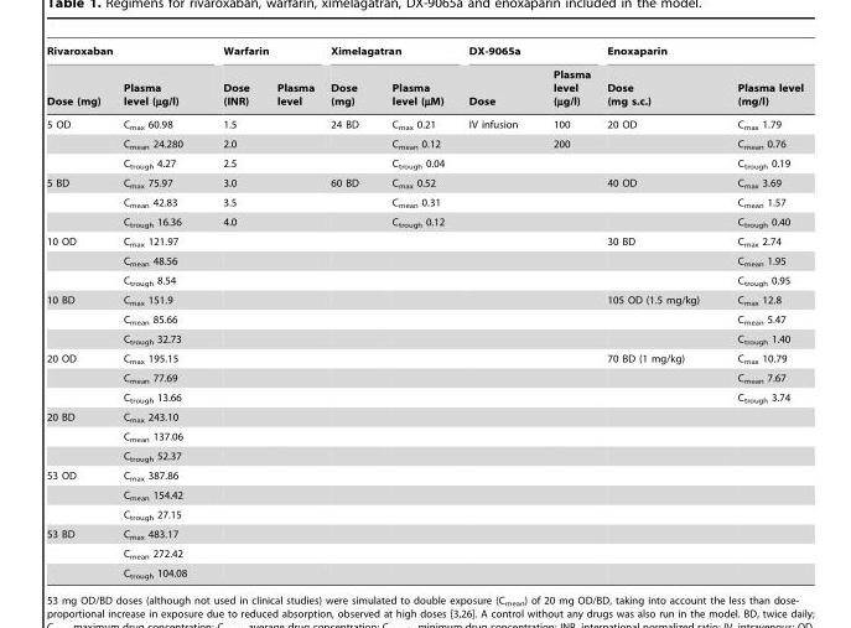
<table><thead><tr><td colspan="2">Rivaroxaban</td><td colspan="2">Warfarin</td><td colspan="2">Ximelagatran</td><td colspan="2">DX-9065a</td><td colspan="2">Enoxaparin</td></tr><tr><td>Dose (mg)</td><td>Plasma level (µg/l)</td><td>Dose (INR)</td><td>Plasma level</td><td>Dose (mg)</td><td>Plasma level (µM)</td><td>Dose</td><td>Plasma level (µg/l)</td><td>Dose (mg s.c.)</td><td>Plasma level (mg/l)</td></tr></thead><tbody><tr><td rowspan="3">5 OD</td><td>C<sub>max</sub> 60.98</td><td>1.5</td><td></td><td>24 BD</td><td>C<sub>max</sub> 0.21</td><td>IV infusion</td><td>100</td><td>20 OD</td><td>C<sub>max</sub> 1.79</td></tr><tr><td>C<sub>mean</sub> 24.280</td><td>2.0</td><td></td><td></td><td>C<sub>mean</sub> 0.12</td><td></td><td>200</td><td></td><td>C<sub>mean</sub> 0.76</td></tr><tr><td>C<sub>trough</sub> 4.27</td><td>2.5</td><td></td><td></td><td>C<sub>trough</sub> 0.04</td><td></td><td></td><td></td><td>C<sub>trough</sub> 0.19</td></tr><tr><td rowspan="3">5 BD</td><td>C<sub>max</sub> 75.97</td><td>3.0</td><td></td><td>60 BD</td><td>C<sub>max</sub> 0.52</td><td></td><td></td><td>40 OD</td><td>C<sub>max</sub> 3.69</td></tr><tr><td>C<sub>mean</sub> 42.83</td><td>3.5</td><td></td><td></td><td>C<sub>mean</sub> 0.31</td><td></td><td></td><td></td><td>C<sub>mean</sub> 1.57</td></tr><tr><td>C<sub>trough</sub> 16.36</td><td>4.0</td><td></td><td></td><td>C<sub>trough</sub> 0.12</td><td></td><td></td><td></td><td>C<sub>trough</sub> 0.40</td></tr><tr><td rowspan="3">10 OD</td><td>C<sub>max</sub> 121.97</td><td></td><td></td><td></td><td></td><td></td><td></td><td>30 BD</td><td>C<sub>max</sub> 2.74</td></tr><tr><td>C<sub>mean</sub> 48.56</td><td></td><td></td><td></td><td></td><td></td><td></td><td></td><td>C<sub>mean</sub> 1.95</td></tr><tr><td>C<sub>trough</sub> 8.54</td><td></td><td></td><td></td><td></td><td></td><td></td><td></td><td>C<sub>trough</sub> 0.95</td></tr><tr><td rowspan="3">10 BD</td><td>C<sub>max</sub> 151.9</td><td></td><td></td><td></td><td></td><td></td><td></td><td>105 OD (1.5 mg/kg)</td><td>C<sub>max</sub> 12.8</td></tr><tr><td>C<sub>mean</sub> 85.66</td><td></td><td></td><td></td><td></td><td></td><td></td><td></td><td>C<sub>mean</sub> 5.47</td></tr><tr><td>C<sub>trough</sub> 32.73</td><td></td><td></td><td></td><td></td><td></td><td></td><td></td><td>C<sub>trough</sub> 1.40</td></tr><tr><td rowspan="3">20 OD</td><td>C<sub>max</sub> 195.15</td><td></td><td></td><td></td><td></td><td></td><td></td><td>70 BD (1 mg/kg)</td><td>C<sub>max</sub> 10.79</td></tr><tr><td>C<sub>mean</sub> 77.69</td><td></td><td></td><td></td><td></td><td></td><td></td><td></td><td>C<sub>mean</sub> 7.67</td></tr><tr><td>C<sub>trough</sub> 13.66</td><td></td><td></td><td></td><td></td><td></td><td></td><td></td><td>C<sub>trough</sub> 3.74</td></tr><tr><td rowspan="3">20 BD</td><td>C<sub>max</sub> 243.10</td><td></td><td></td><td></td><td></td><td></td><td></td><td></td><td></td></tr><tr><td>C<sub>mean</sub> 137.06</td><td></td><td></td><td></td><td></td><td></td><td></td><td></td><td></td></tr><tr><td>C<sub>trough</sub> 52.37</td><td></td><td></td><td></td><td></td><td></td><td></td><td></td><td></td></tr><tr><td rowspan="3">53 OD</td><td>C<sub>max</sub> 387.86</td><td></td><td></td><td></td><td></td><td></td><td></td><td></td><td></td></tr><tr><td>C<sub>mean</sub> 154.42</td><td></td><td></td><td></td><td></td><td></td><td></td><td></td><td></td></tr><tr><td>C<sub>trough</sub> 27.15</td><td></td><td></td><td></td><td></td><td></td><td></td><td></td><td></td></tr><tr><td rowspan="3">53 BD</td><td>C<sub>max</sub> 483.17</td><td></td><td></td><td></td><td></td><td></td><td></td><td></td><td></td></tr><tr><td>C<sub>mean</sub> 272.42</td><td></td><td></td><td></td><td></td><td></td><td></td><td></td><td></td></tr><tr><td>C<sub>trough</sub> 104.08</td><td></td><td></td><td></td><td></td><td></td><td></td><td></td><td></td></tr></tbody></table>